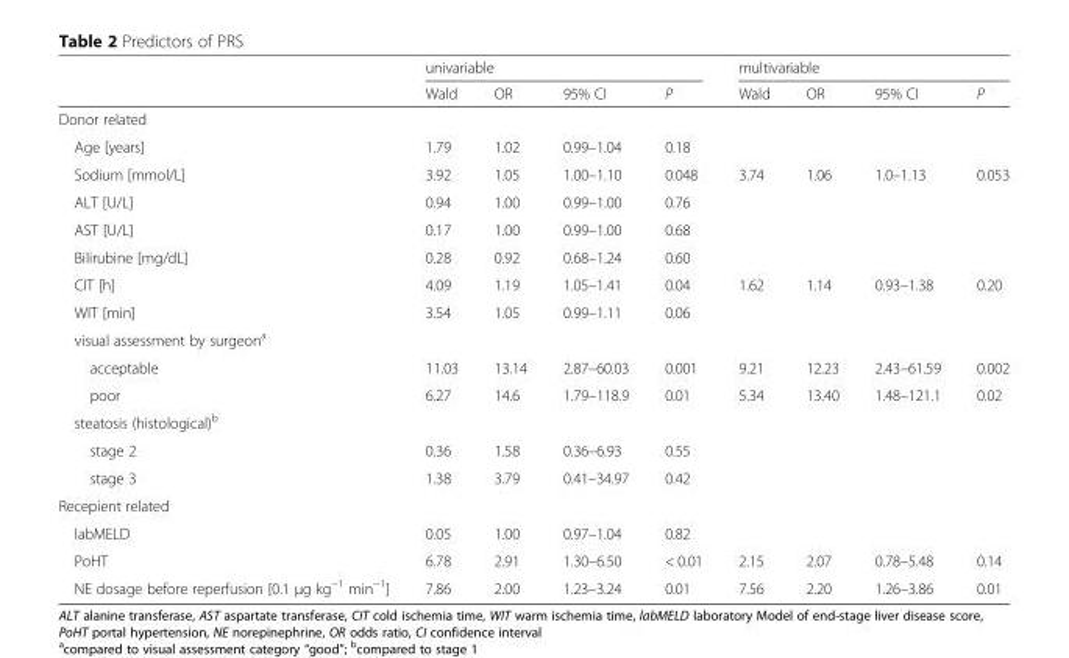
<table><thead><tr><td rowspan="2"></td><td colspan="4">univariable</td><td colspan="4">multivariable</td></tr><tr><td>Wald</td><td>OR</td><td>95% CI</td><td>P</td><td>Wald</td><td>OR</td><td>95% CI</td><td>P</td></tr></thead><tbody><tr><td colspan="9">Donor related</td></tr><tr><td>Age [years]</td><td>1.79</td><td>1.02</td><td>0.99–1.04</td><td>0.18</td><td></td><td></td><td></td><td></td></tr><tr><td>Sodium [mmol/L]</td><td>3.92</td><td>1.05</td><td>1.00–1.10</td><td>0.048</td><td>3.74</td><td>1.06</td><td>1.0–1.13</td><td>0.053</td></tr><tr><td>ALT [U/L]</td><td>0.94</td><td>1.00</td><td>0.99–1.00</td><td>0.76</td><td></td><td></td><td></td><td></td></tr><tr><td>AST [U/L]</td><td>0.17</td><td>1.00</td><td>0.99–1.00</td><td>0.68</td><td></td><td></td><td></td><td></td></tr><tr><td>Bilirubine [mg/dL]</td><td>0.28</td><td>0.92</td><td>0.68–1.24</td><td>0.60</td><td></td><td></td><td></td><td></td></tr><tr><td>CIT [h]</td><td>4.09</td><td>1.19</td><td>1.05–1.41</td><td>0.04</td><td>1.62</td><td>1.14</td><td>0.93–1.38</td><td>0.20</td></tr><tr><td>WIT [min]</td><td>3.54</td><td>1.05</td><td>0.99–1.11</td><td>0.06</td><td></td><td></td><td></td><td></td></tr><tr><td colspan="9">visual assessment by surgeon<sup>a</sup></td></tr><tr><td>acceptable</td><td>11.03</td><td>13.14</td><td>2.87–60.03</td><td>0.001</td><td>9.21</td><td>12.23</td><td>2.43–61.59</td><td>0.002</td></tr><tr><td>poor</td><td>6.27</td><td>14.6</td><td>1.79–118.9</td><td>0.01</td><td>5.34</td><td>13.40</td><td>1.48–121.1</td><td>0.02</td></tr><tr><td colspan="9">steatosis (histological)<sup>b</sup></td></tr><tr><td>stage 2</td><td>0.36</td><td>1.58</td><td>0.36–6.93</td><td>0.55</td><td></td><td></td><td></td><td></td></tr><tr><td>stage 3</td><td>1.38</td><td>3.79</td><td>0.41–34.97</td><td>0.42</td><td></td><td></td><td></td><td></td></tr><tr><td colspan="9">Recepient related</td></tr><tr><td>labMELD</td><td>0.05</td><td>1.00</td><td>0.97–1.04</td><td>0.82</td><td></td><td></td><td></td><td></td></tr><tr><td>PoHT</td><td>6.78</td><td>2.91</td><td>1.30–6.50</td><td>&lt; 0.01</td><td>2.15</td><td>2.07</td><td>0.78–5.48</td><td>0.14</td></tr><tr><td>NE dosage before reperfusion [0.1 μg kg<sup>−1</sup> min<sup>−1</sup>]</td><td>7.86</td><td>2.00</td><td>1.23–3.24</td><td>0.01</td><td>7.56</td><td>2.20</td><td>1.26–3.86</td><td>0.01</td></tr></tbody></table>